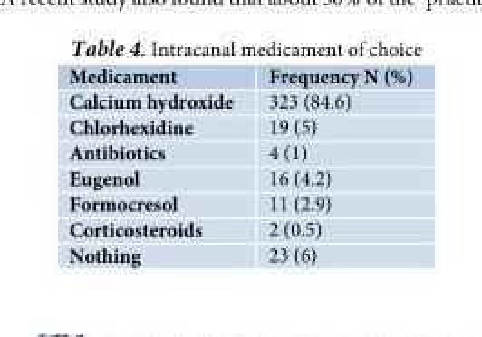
<table><thead><tr><td>Medicament</td><td>Frequency N (%)</td></tr></thead><tbody><tr><td>Calcium hydroxide</td><td>323 (84.6)</td></tr><tr><td>Chlorhexidine</td><td>19 (5)</td></tr><tr><td>Antibiotics</td><td>4 (1)</td></tr><tr><td>Eugenol</td><td>16 (4.2)</td></tr><tr><td>Formocresol</td><td>11 (2.9)</td></tr><tr><td>Corticosteroids</td><td>2 (0.5)</td></tr><tr><td>Nothing</td><td>23 (6)</td></tr></tbody></table>